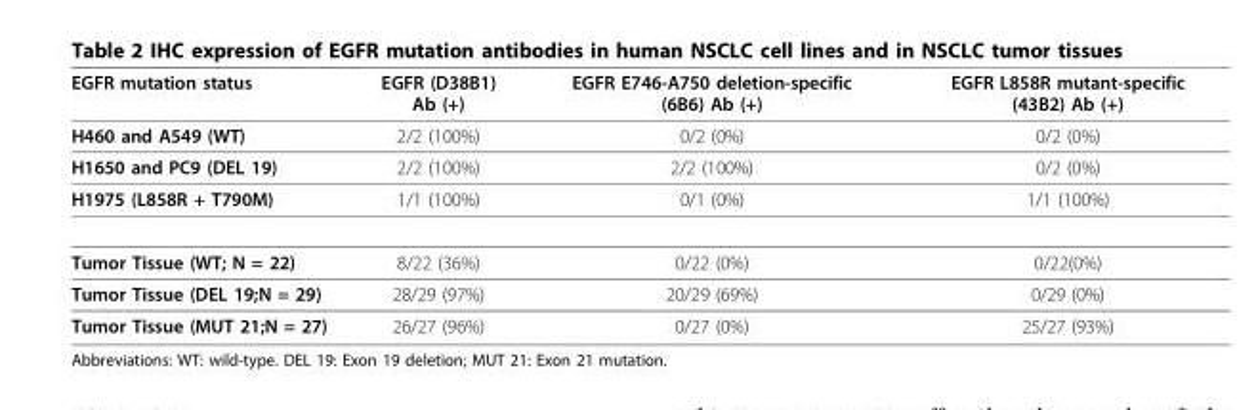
<table><thead><tr><td>EGFR mutation status</td><td>EGFR (D38B1) Ab (+)</td><td>EGFR E746-A750 deletion-specific (6B6) Ab (+)</td><td>EGFR L858R mutant-specific (43B2) Ab (+)</td></tr></thead><tbody><tr><td>H460 and A549 (WT)</td><td>2/2 (100%)</td><td>0/2 (0%)</td><td>0/2 (0%)</td></tr><tr><td>H1650 and PC9 (DEL 19)</td><td>2/2 (100%)</td><td>2/2 (100%)</td><td>0/2 (0%)</td></tr><tr><td>H1975 (L858R + T790M)</td><td>1/1 (100%)</td><td>0/1 (0%)</td><td>1/1 (100%)</td></tr><tr><td>Tumor Tissue (WT; N = 22)</td><td>8/22 (36%)</td><td>0/22 (0%)</td><td>0/22(0%)</td></tr><tr><td>Tumor Tissue (DEL 19;N = 29)</td><td>28/29 (97%)</td><td>20/29 (69%)</td><td>0/29 (0%)</td></tr><tr><td>Tumor Tissue (MUT 21;N = 27)</td><td>26/27 (96%)</td><td>0/27 (0%)</td><td>25/27 (93%)</td></tr></tbody></table>